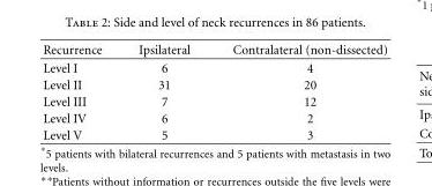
<table><thead><tr><td>Recurrence</td><td>Ipsilateral</td><td>Contralateral (non-dissected)</td></tr></thead><tbody><tr><td>Level I</td><td>6</td><td>4</td></tr><tr><td>Level II</td><td>31</td><td>20</td></tr><tr><td>Level III</td><td>7</td><td>12</td></tr><tr><td>Level IV</td><td>6</td><td>2</td></tr><tr><td>Level V</td><td>5</td><td>3</td></tr></tbody></table>